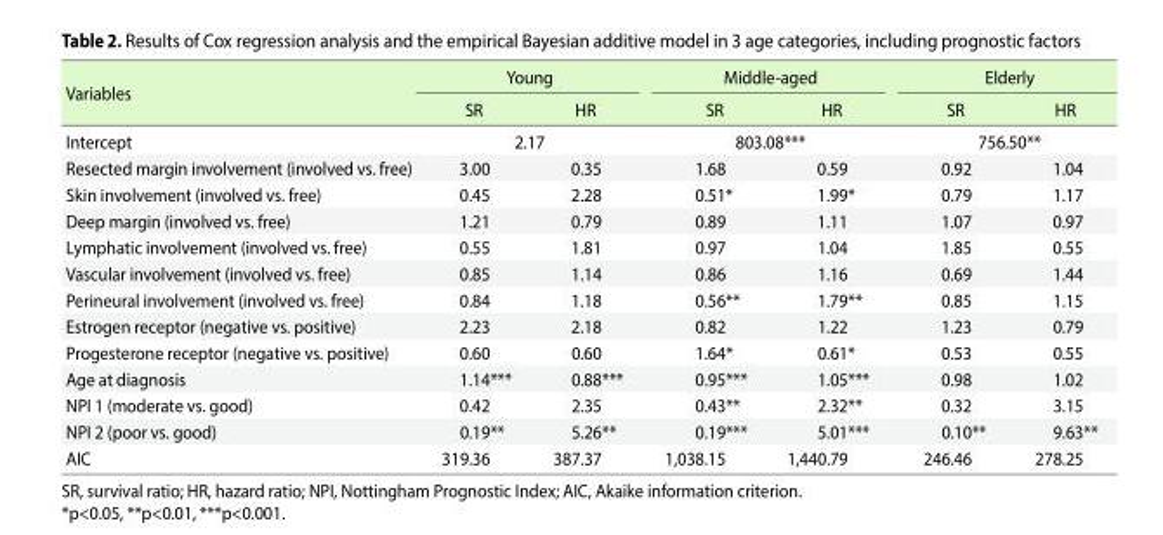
<table><thead><tr><td rowspan="2">Variables</td><td colspan="2">Young</td><td colspan="2">Middle-aged</td><td colspan="2">Elderly</td></tr><tr><td>SR</td><td>HR</td><td>SR</td><td>HR</td><td>SR</td><td>HR</td></tr></thead><tbody><tr><td>Intercept</td><td colspan="2">2.17</td><td colspan="2">803.08***</td><td colspan="2">756.50**</td></tr><tr><td>Resected margin involvement (involved vs. free)</td><td>3.00</td><td>0.35</td><td>1.68</td><td>0.59</td><td>0.92</td><td>1.04</td></tr><tr><td>Skin involvement (involved vs. free)</td><td>0.45</td><td>2.28</td><td>0.51*</td><td>1.99*</td><td>0.79</td><td>1.17</td></tr><tr><td>Deep margin (involved vs. free)</td><td>1.21</td><td>0.79</td><td>0.89</td><td>1.11</td><td>1.07</td><td>0.97</td></tr><tr><td>Lymphatic involvement (involved vs. free)</td><td>0.55</td><td>1.81</td><td>0.97</td><td>1.04</td><td>1.85</td><td>0.55</td></tr><tr><td>Vascular involvement (involved vs. free)</td><td>0.85</td><td>1.14</td><td>0.86</td><td>1.16</td><td>0.69</td><td>1.44</td></tr><tr><td>Perineural involvement (involved vs. free)</td><td>0.84</td><td>1.18</td><td>0.56**</td><td>1.79**</td><td>0.85</td><td>1.15</td></tr><tr><td>Estrogen receptor (negative vs. positive)</td><td>2.23</td><td>2.18</td><td>0.82</td><td>1.22</td><td>1.23</td><td>0.79</td></tr><tr><td>Progesterone receptor (negative vs. positive)</td><td>0.60</td><td>0.60</td><td>1.64*</td><td>0.61*</td><td>0.53</td><td>0.55</td></tr><tr><td>Age at diagnosis</td><td>1.14***</td><td>0.88***</td><td>0.95***</td><td>1.05***</td><td>0.98</td><td>1.02</td></tr><tr><td>NPI 1 (moderate vs. good)</td><td>0.42</td><td>2.35</td><td>0.43**</td><td>2.32**</td><td>0.32</td><td>3.15</td></tr><tr><td>NPI 2 (poor vs. good)</td><td>0.19**</td><td>5.26**</td><td>0.19***</td><td>5.01***</td><td>0.10**</td><td>9.63**</td></tr><tr><td>AIC</td><td>319.36</td><td>387.37</td><td>1,038.15</td><td>1,440.79</td><td>246.46</td><td>278.25</td></tr></tbody></table>